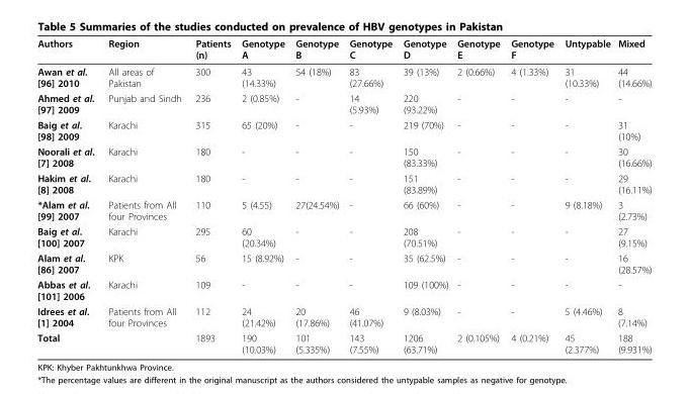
<table><thead><tr><td>Authors</td><td>Region</td><td>Patients (n)</td><td>Genotype A</td><td>Genotype B</td><td>Genotype C</td><td>Genotype D</td><td>Genotype E</td><td>Genotype F</td><td>Untypable</td><td>Mixed</td></tr></thead><tbody><tr><td>Awan et al. [96] 2010</td><td>All areas of Pakistan</td><td>300</td><td>43 (14.33%)</td><td>54 (18%)</td><td>83 (27.66%)</td><td>39 (13%)</td><td>2 (0.66%)</td><td>4 (1.33%)</td><td>31 (10.33%)</td><td>44 (14.66%)</td></tr><tr><td>Ahmed et al. [97] 2009</td><td>Punjab and Sindh</td><td>236</td><td>2 (0.85%)</td><td>-</td><td>14 (5.93%)</td><td>220 (93.22%)</td><td>-</td><td>-</td><td>-</td><td>-</td></tr><tr><td>Baig et al. [98] 2009</td><td>Karachi</td><td>315</td><td>65 (20%)</td><td>-</td><td>-</td><td>219 (70%)</td><td>-</td><td>-</td><td>-</td><td>31 (10%)</td></tr><tr><td>Noorali et al. [7] 2008</td><td>Karachi</td><td>180</td><td>-</td><td>-</td><td>-</td><td>150 (83.33%)</td><td>-</td><td>-</td><td>-</td><td>30 (16.66%)</td></tr><tr><td>Hakim et al. [8] 2008</td><td>Karachi</td><td>180</td><td>-</td><td>-</td><td>-</td><td>151 (83.89%)</td><td>-</td><td>-</td><td>-</td><td>29 (16.11%)</td></tr><tr><td>*Alam et al. [99] 2007</td><td>Patients from All four Provinces</td><td>110</td><td>5 (4.55)</td><td>27(24.54%)</td><td>-</td><td>66 (60%)</td><td>-</td><td>-</td><td>9 (8.18%)</td><td>3 (2.73%)</td></tr><tr><td>Baig et al. [100] 2007</td><td>Karachi</td><td>295</td><td>60 (20.34%)</td><td>-</td><td>-</td><td>208 (70.51%)</td><td>-</td><td>-</td><td>-</td><td>27 (9.15%)</td></tr><tr><td>Alam et al. [86] 2007</td><td>KPK</td><td>56</td><td>15 (8.92%)</td><td>-</td><td>-</td><td>35 (62.5%)</td><td>-</td><td>-</td><td>-</td><td>16 (28.57%)</td></tr><tr><td>Abbas et al. [101] 2006</td><td>Karachi</td><td>109</td><td>-</td><td>-</td><td>-</td><td>109 (100%)</td><td>-</td><td>-</td><td>-</td><td>-</td></tr><tr><td>Idrees et al. [1] 2004</td><td>Patients from All four Provinces</td><td>112</td><td>24 (21.42%)</td><td>20 (17.86%)</td><td>46 (41.07%)</td><td>9 (8.03%)</td><td>-</td><td>-</td><td>5 (4.46%)</td><td>8 (7.14%)</td></tr><tr><td>Total</td><td></td><td>1893</td><td>190 (10.03%)</td><td>101 (5.335%)</td><td>143 (7.55%)</td><td>1206 (63.71%)</td><td>2 (0.105%)</td><td>4 (0.21%)</td><td>45 (2.377%)</td><td>188 (9.931%)</td></tr></tbody></table>